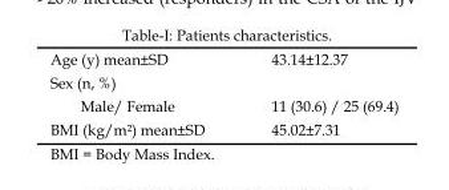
<table><tbody><tr><td>Age (y) mean±SD</td><td>43.14±12.37</td></tr><tr><td>Sex (n, %) Male/ Female</td><td>11 (30.6) / 25 (69.4)</td></tr><tr><td>BMI (kg/m²) mean±SD</td><td>45.02±7.31</td></tr></tbody></table>